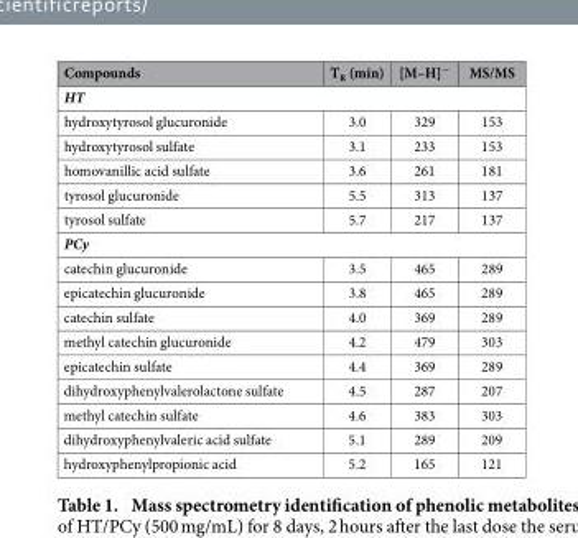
<table><thead><tr><td>Compounds</td><td>T<sub>R</sub> (min)</td><td>[M–H]<sup>−</sup></td><td>MS/MS</td></tr></thead><tbody><tr><td colspan="4">HT</td></tr><tr><td>hydroxytyrosol glucuronide</td><td>3.0</td><td>329</td><td>153</td></tr><tr><td>hydroxytyrosol sulfate</td><td>3.1</td><td>233</td><td>153</td></tr><tr><td>homovanillic acid sulfate</td><td>3.6</td><td>261</td><td>181</td></tr><tr><td>tyrosol glucuronide</td><td>5.5</td><td>313</td><td>137</td></tr><tr><td>tyrosol sulfate</td><td>5.7</td><td>217</td><td>137</td></tr><tr><td colspan="4">PCy</td></tr><tr><td>catechin glucuronide</td><td>3.5</td><td>465</td><td>289</td></tr><tr><td>epicatechin glucuronide</td><td>3.8</td><td>465</td><td>289</td></tr><tr><td>catechin sulfate</td><td>4.0</td><td>369</td><td>289</td></tr><tr><td>methyl catechin glucuronide</td><td>4.2</td><td>479</td><td>303</td></tr><tr><td>epicatechin sulfate</td><td>4.4</td><td>369</td><td>289</td></tr><tr><td>dihydroxyphenylvalerolactone sulfate</td><td>4.5</td><td>287</td><td>207</td></tr><tr><td>methyl catechin sulfate</td><td>4.6</td><td>383</td><td>303</td></tr><tr><td>dihydroxyphenylvaleric acid sulfate</td><td>5.1</td><td>289</td><td>209</td></tr><tr><td>hydroxyphenylpropionic acid</td><td>5.2</td><td>165</td><td>121</td></tr></tbody></table>